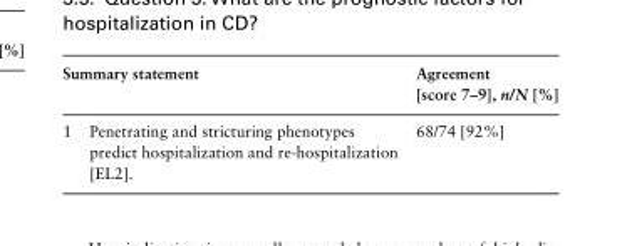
<table><thead><tr><td colspan="2">Summary statement</td><td rowspan="2">Agreement [score 7–9], n/N [%] 68/74 [92%]</td></tr><tr><td>1</td><td>Penetrating and stricturing phenotypes predict hospitalization and re-hospitalization [EL2].</td></tr></thead><tbody></tbody></table>